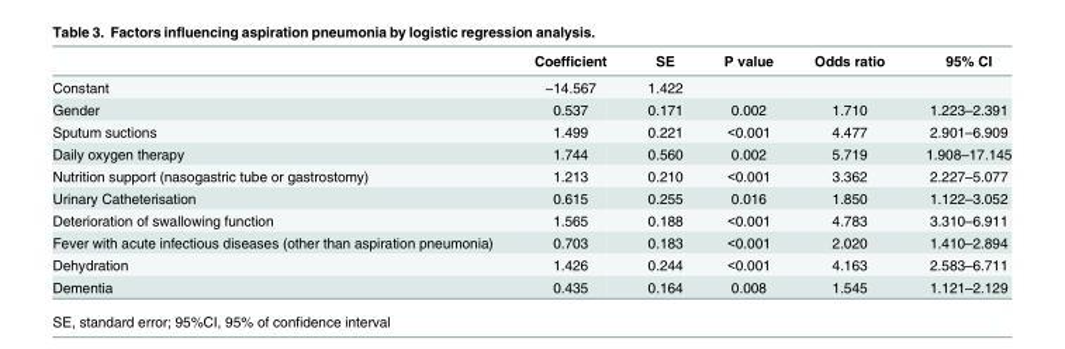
<table><thead><tr><td></td><td>Coefficient</td><td>SE</td><td>P value</td><td>Odds ratio</td><td>95% CI</td></tr></thead><tbody><tr><td>Constant</td><td>−14.567</td><td>1.422</td><td></td><td></td><td></td></tr><tr><td>Gender</td><td>0.537</td><td>0.171</td><td>0.002</td><td>1.710</td><td>1.223–2.391</td></tr><tr><td>Sputum suctions</td><td>1.499</td><td>0.221</td><td>&lt;0.001</td><td>4.477</td><td>2.901–6.909</td></tr><tr><td>Daily oxygen therapy</td><td>1.744</td><td>0.560</td><td>0.002</td><td>5.719</td><td>1.908–17.145</td></tr><tr><td>Nutrition support (nasogastric tube or gastrostomy)</td><td>1.213</td><td>0.210</td><td>&lt;0.001</td><td>3.362</td><td>2.227–5.077</td></tr><tr><td>Urinary Catheterisation</td><td>0.615</td><td>0.255</td><td>0.016</td><td>1.850</td><td>1.122–3.052</td></tr><tr><td>Deterioration of swallowing function</td><td>1.565</td><td>0.188</td><td>&lt;0.001</td><td>4.783</td><td>3.310–6.911</td></tr><tr><td>Fever with acute infectious diseases (other than aspiration pneumonia)</td><td>0.703</td><td>0.183</td><td>&lt;0.001</td><td>2.020</td><td>1.410–2.894</td></tr><tr><td>Dehydration</td><td>1.426</td><td>0.244</td><td>&lt;0.001</td><td>4.163</td><td>2.583–6.711</td></tr><tr><td>Dementia</td><td>0.435</td><td>0.164</td><td>0.008</td><td>1.545</td><td>1.121–2.129</td></tr></tbody></table>